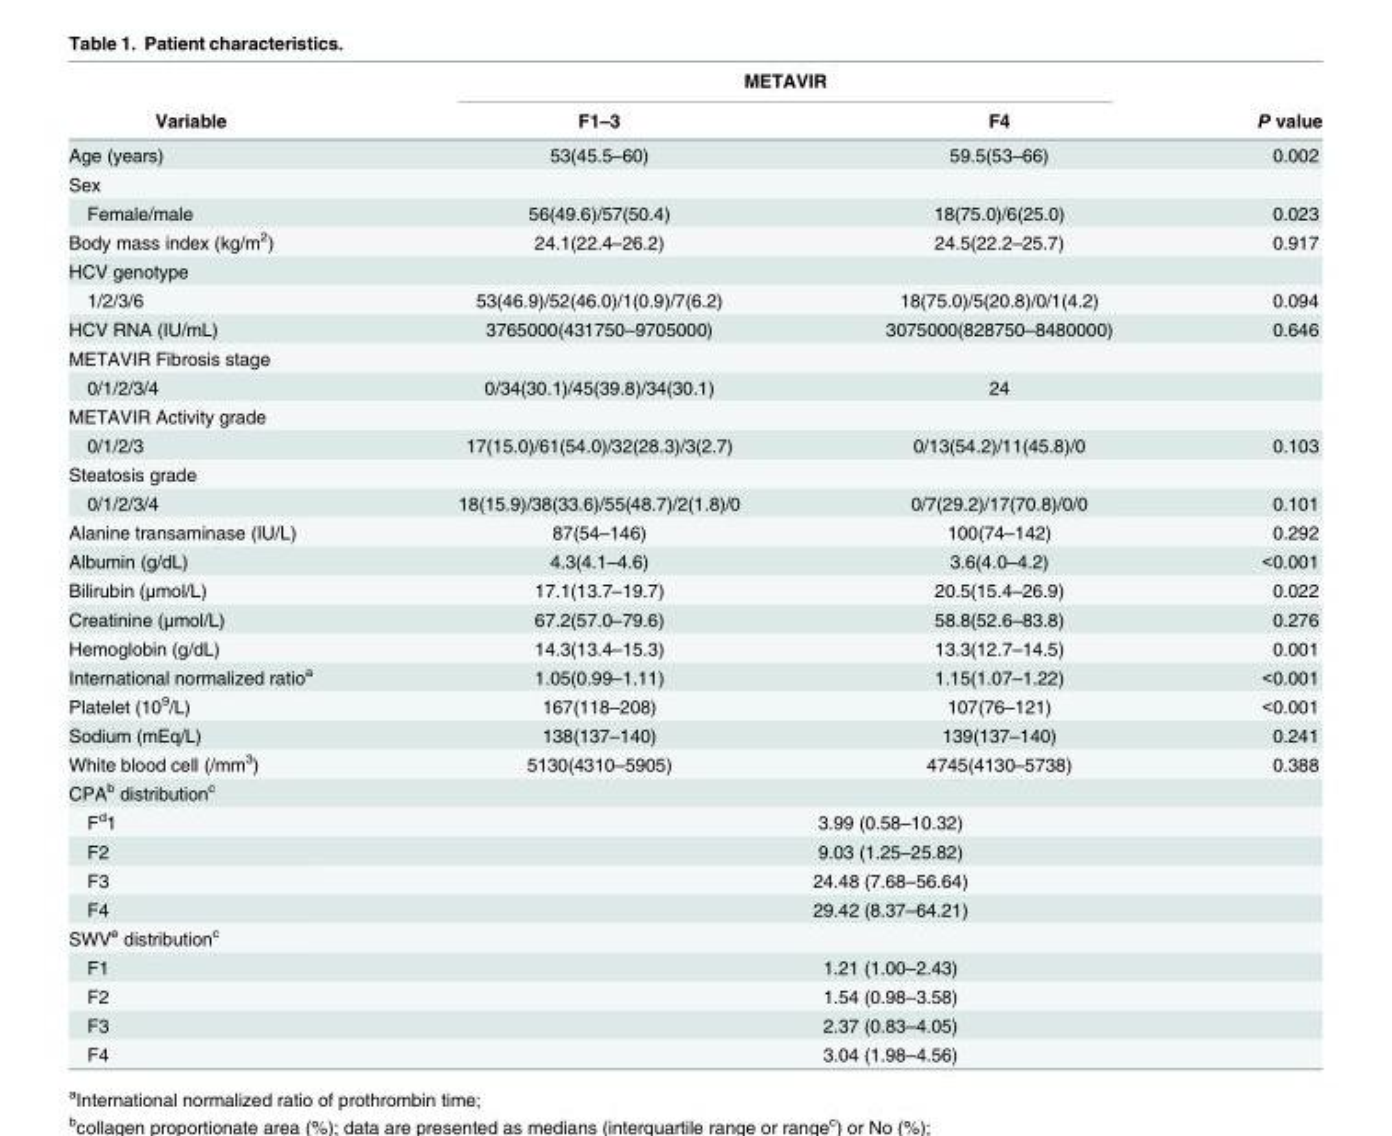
<table><thead><tr><td rowspan="2">Variable</td><td colspan="2">METAVIR</td><td rowspan="2">P value</td></tr><tr><td>F1–3</td><td>F4</td></tr></thead><tbody><tr><td>Age (years)</td><td>53(45.5–60)</td><td>59.5(53–66)</td><td>0.002</td></tr><tr><td colspan="4">Sex</td></tr><tr><td>Female/male</td><td>56(49.6)/57(50.4)</td><td>18(75.0)/6(25.0)</td><td>0.023</td></tr><tr><td>Body mass index (kg/m<sup>2</sup>)</td><td>24.1(22.4–26.2)</td><td>24.5(22.2–25.7)</td><td>0.917</td></tr><tr><td colspan="4">HCV genotype</td></tr><tr><td>1/2/3/6</td><td>53(46.9)/52(46.0)/1(0.9)/7(6.2)</td><td>18(75.0)/5(20.8)/0/1(4.2)</td><td>0.094</td></tr><tr><td>HCV RNA (IU/mL)</td><td>3765000(431750–9705000)</td><td>3075000(828750–8480000)</td><td>0.646</td></tr><tr><td colspan="4">METAVIR Fibrosis stage</td></tr><tr><td>0/1/2/3/4</td><td>0/34(30.1)/45(39.8)/34(30.1)</td><td>24</td><td></td></tr><tr><td colspan="4">METAVIR Activity grade</td></tr><tr><td>0/1/2/3</td><td>17(15.0)/61(54.0)/32(28.3)/3(2.7)</td><td>0/13(54.2)/11(45.8)/0</td><td>0.103</td></tr><tr><td colspan="4">Steatosis grade</td></tr><tr><td>0/1/2/3/4</td><td>18(15.9)/38(33.6)/55(48.7)/2(1.8)/0</td><td>0/7(29.2)/17(70.8)/0/0</td><td>0.101</td></tr><tr><td>Alanine transaminase (IU/L)</td><td>87(54–146)</td><td>100(74–142)</td><td>0.292</td></tr><tr><td>Albumin (g/dL)</td><td>4.3(4.1–4.6)</td><td>3.6(4.0–4.2)</td><td>&lt;0.001</td></tr><tr><td>Bilirubin (μmol/L)</td><td>17.1(13.7–19.7)</td><td>20.5(15.4–26.9)</td><td>0.022</td></tr><tr><td>Creatinine (μmol/L)</td><td>67.2(57.0–79.6)</td><td>58.8(52.6–83.8)</td><td>0.276</td></tr><tr><td>Hemoglobin (g/dL)</td><td>14.3(13.4–15.3)</td><td>13.3(12.7–14.5)</td><td>0.001</td></tr><tr><td>International normalized ratio<sup>a</sup></td><td>1.05(0.99–1.11)</td><td>1.15(1.07–1.22)</td><td>&lt;0.001</td></tr><tr><td>Platelet (10<sup>9</sup>/L)</td><td>167(118–208)</td><td>107(76–121)</td><td>&lt;0.001</td></tr><tr><td>Sodium (mEq/L)</td><td>138(137–140)</td><td>139(137–140)</td><td>0.241</td></tr><tr><td>White blood cell (/mm<sup>3</sup>)</td><td>5130(4310–5905)</td><td>4745(4130–5738)</td><td>0.388</td></tr><tr><td colspan="4">CPA<sup>b</sup> distribution<sup>c</sup></td></tr><tr><td>F<sup>d</sup>1</td><td colspan="3">3.99 (0.58–10.32)</td></tr><tr><td>F2</td><td colspan="3">9.03 (1.25–25.82)</td></tr><tr><td>F3</td><td colspan="3">24.48 (7.68–56.64)</td></tr><tr><td>F4</td><td colspan="3">29.42 (8.37–64.21)</td></tr><tr><td colspan="4">SWV<sup>e</sup> distribution<sup>c</sup></td></tr><tr><td>F1</td><td colspan="3">1.21 (1.00–2.43)</td></tr><tr><td>F2</td><td colspan="3">1.54 (0.98–3.58)</td></tr><tr><td>F3</td><td colspan="3">2.37 (0.83–4.05)</td></tr><tr><td>F4</td><td colspan="3">3.04 (1.98–4.56)</td></tr></tbody></table>